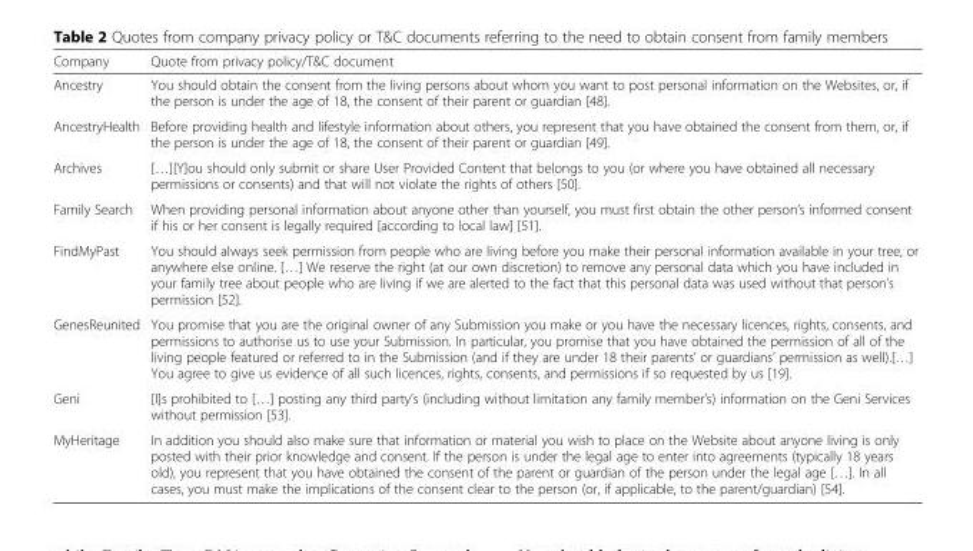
<table><thead><tr><td>Company</td><td>Quote from privacy policy/T&amp;C document</td></tr></thead><tbody><tr><td>Ancestry</td><td>You should obtain the consent from the living persons about whom you want to post personal information on the Websites, or, if the person is under the age of 18, the consent of their parent or guardian [48].</td></tr><tr><td>AncestryHealth</td><td>Before providing health and lifestyle information about others, you represent that you have obtained the consent from them, or, if the person is under the age of 18, the consent of their parent or guardian [49].</td></tr><tr><td>Archives</td><td>[…][Y]ou should only submit or share User Provided Content that belongs to you (or where you have obtained all necessary permissions or consents) and that will not violate the rights of others [50].</td></tr><tr><td>Family Search</td><td>When providing personal information about anyone other than yourself, you must first obtain the other person’s informed consent if his or her consent is legally required [according to local law] [51].</td></tr><tr><td>FindMyPast</td><td>You should always seek permission from people who are living before you make their personal information available in your tree, or anywhere else online. […] We reserve the right (at our own discretion) to remove any personal data which you have included in your family tree about people who are living if we are alerted to the fact that this personal data was used without that person’s permission [52].</td></tr><tr><td>GenesReunited</td><td>You promise that you are the original owner of any Submission you make or you have the necessary licences, rights, consents, and permissions to authorise us to use your Submission. In particular, you promise that you have obtained the permission of all of the living people featured or referred to in the Submission (and if they are under 18 their parents’ or guardians’ permission as well).[…] You agree to give us evidence of all such licences, rights, consents, and permissions if so requested by us [19].</td></tr><tr><td>Geni</td><td>[I]s prohibited to […] posting any third party’s (including without limitation any family member’s) information on the Geni Services without permission [53].</td></tr><tr><td>MyHeritage</td><td>In addition you should also make sure that information or material you wish to place on the Website about anyone living is only posted with their prior knowledge and consent. If the person is under the legal age to enter into agreements (typically 18 years old), you represent that you have obtained the consent of the parent or guardian of the person under the legal age […]. In all cases, you must make the implications of the consent clear to the person (or, if applicable, to the parent/guardian) [54].</td></tr></tbody></table>